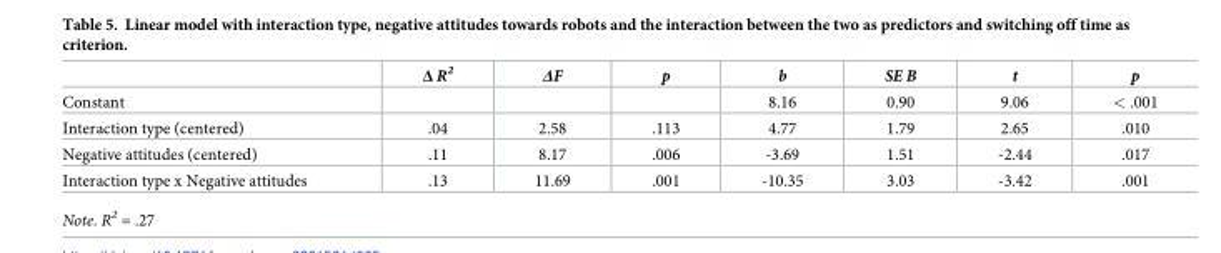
<table><thead><tr><td></td><td>Δ R<sup>2</sup></td><td>ΔF</td><td>p</td><td>b</td><td>SE B</td><td>t</td><td>p</td></tr></thead><tbody><tr><td>Constant</td><td></td><td></td><td></td><td>8.16</td><td>0.90</td><td>9.06</td><td>&lt; .001</td></tr><tr><td>Interaction type (centered)</td><td>.04</td><td>2.58</td><td>.113</td><td>4.77</td><td>1.79</td><td>2.65</td><td>.010</td></tr><tr><td>Negative attitudes (centered)</td><td>.11</td><td>8.17</td><td>.006</td><td>-3.69</td><td>1.51</td><td>-2.44</td><td>.017</td></tr><tr><td>Interaction type x Negative attitudes</td><td>.13</td><td>11.69</td><td>.001</td><td>-10.35</td><td>3.03</td><td>-3.42</td><td>.001</td></tr></tbody></table>